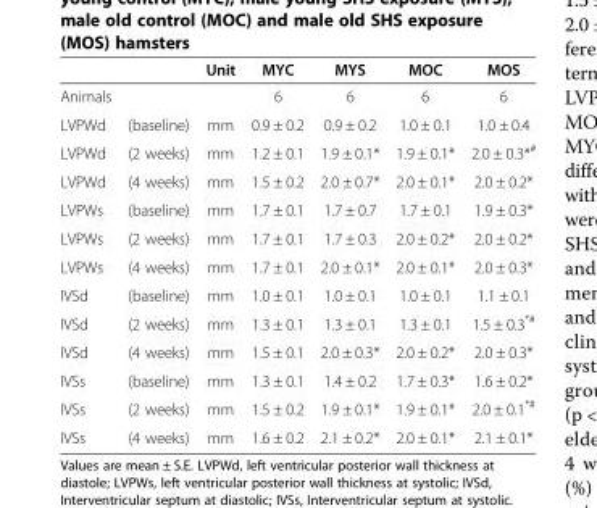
<table><thead><tr><td></td><td></td><td>Unit</td><td>MYC</td><td>MYS</td><td>MOC</td><td>MOS</td></tr></thead><tbody><tr><td>Animals</td><td></td><td></td><td>6</td><td>6</td><td>6</td><td>6</td></tr><tr><td>LVPWd</td><td>(baseline)</td><td>mm</td><td>0.9 ± 0.2</td><td>0.9 ± 0.2</td><td>1.0 ± 0.1</td><td>1.0 ± 0.4</td></tr><tr><td>LVPWd</td><td>(2 weeks)</td><td>mm</td><td>1.2 ± 0.1</td><td>1.9 ± 0.1*</td><td>1.9 ± 0.1*</td><td>2.0 ± 0.3*<sup>#</sup></td></tr><tr><td>LVPWd</td><td>(4 weeks)</td><td>mm</td><td>1.5 ± 0.2</td><td>2.0 ± 0.7*</td><td>2.0 ± 0.1*</td><td>2.0 ± 0.2*</td></tr><tr><td>LVPWs</td><td>(baseline)</td><td>mm</td><td>1.7 ± 0.1</td><td>1.7 ± 0.7</td><td>1.7 ± 0.1</td><td>1.9 ± 0.3*</td></tr><tr><td>LVPWs</td><td>(2 weeks)</td><td>mm</td><td>1.7 ± 0.1</td><td>1.7 ± 0.3</td><td>2.0 ± 0.2*</td><td>2.0 ± 0.2*</td></tr><tr><td>LVPWs</td><td>(4 weeks)</td><td>mm</td><td>1.7 ± 0.1</td><td>2.0 ± 0.1*</td><td>2.0 ± 0.1*</td><td>2.0 ± 0.3*</td></tr><tr><td>IVSd</td><td>(baseline)</td><td>mm</td><td>1.0 ± 0.1</td><td>1.0 ± 0.1</td><td>1.0 ± 0.1</td><td>1.1 ± 0.1</td></tr><tr><td>IVSd</td><td>(2 weeks)</td><td>mm</td><td>1.3 ± 0.1</td><td>1.3 ± 0.1</td><td>1.3 ± 0.1</td><td>1.5 ± 0.3<sup>*#</sup></td></tr><tr><td>IVSd</td><td>(4 weeks)</td><td>mm</td><td>1.5 ± 0.1</td><td>2.0 ± 0.3*</td><td>2.0 ± 0.2*</td><td>2.0 ± 0.3*</td></tr><tr><td>IVSs</td><td>(baseline)</td><td>mm</td><td>1.3 ± 0.1</td><td>1.4 ± 0.2</td><td>1.7 ± 0.3*</td><td>1.6 ± 0.2*</td></tr><tr><td>IVSs</td><td>(2 weeks)</td><td>mm</td><td>1.5 ± 0.2</td><td>1.9 ± 0.1*</td><td>1.9 ± 0.1*</td><td>2.0 ± 0.1<sup>*#</sup></td></tr><tr><td>IVSs</td><td>(4 weeks)</td><td>mm</td><td>1.6 ± 0.2</td><td>2.1 ± 0.2*</td><td>2.0 ± 0.1*</td><td>2.1 ± 0.1*</td></tr></tbody></table>